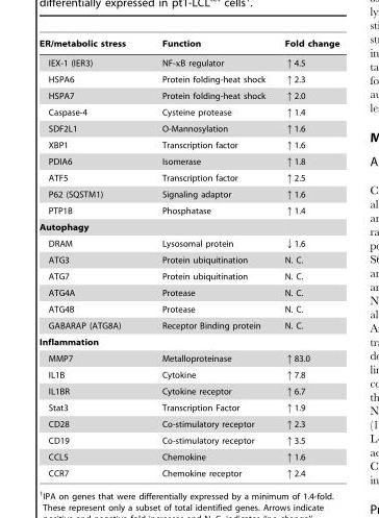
<table><thead><tr><td>ER/metabolic stress</td><td>Function</td><td>Fold change</td></tr></thead><tbody><tr><td>IEX-1 (IER3)</td><td>NF-κB regulator</td><td>↑4.5</td></tr><tr><td>HSPA6</td><td>Protein folding-heat shock</td><td>↑2.3</td></tr><tr><td>HSPA7</td><td>Protein folding-heat shock</td><td>↑2.0</td></tr><tr><td>Caspase-4</td><td>Cysteine protease</td><td>↑1.4</td></tr><tr><td>SDF2L1</td><td>O-Mannosylation</td><td>↑1.6</td></tr><tr><td>XBP1</td><td>Transcription factor</td><td>↑1.6</td></tr><tr><td>PDIA6</td><td>Isomerase</td><td>↑1.8</td></tr><tr><td>ATF5</td><td>Transcription factor</td><td>↑2.5</td></tr><tr><td>P62 (SQSTM1)</td><td>Signaling adaptor</td><td>↑1.6</td></tr><tr><td>PTP1B</td><td>Phosphatase</td><td>↑1.4</td></tr><tr><td colspan="3">Autophagy</td></tr><tr><td>DRAM</td><td>Lysosomal protein</td><td>↓1.6</td></tr><tr><td>ATG3</td><td>Protein ubiquitination</td><td>N. C.</td></tr><tr><td>ATG7</td><td>Protein ubiquitination</td><td>N. C.</td></tr><tr><td>ATG4A</td><td>Protease</td><td>N. C.</td></tr><tr><td>ATG4B</td><td>Protease</td><td>N. C.</td></tr><tr><td>GABARAP (ATG8A)</td><td>Receptor Binding protein</td><td>N. C.</td></tr><tr><td colspan="3">Inflammation</td></tr><tr><td>MMP7</td><td>Metalloproteinase</td><td>↑83.0</td></tr><tr><td>IL1B</td><td>Cytokine</td><td>↑7.8</td></tr><tr><td>IL1BR</td><td>Cytokine receptor</td><td>↑6.7</td></tr><tr><td>Stat3</td><td>Transcription Factor</td><td>↑1.9</td></tr><tr><td>CD28</td><td>Co-stimulatory receptor</td><td>↑2.3</td></tr><tr><td>CD19</td><td>Co-stimulatory receptor</td><td>↑3.5</td></tr><tr><td>CCL5</td><td>Chemokine</td><td>↑1.6</td></tr><tr><td>CCR7</td><td>Chemokine receptor</td><td>↑2.4</td></tr></tbody></table>